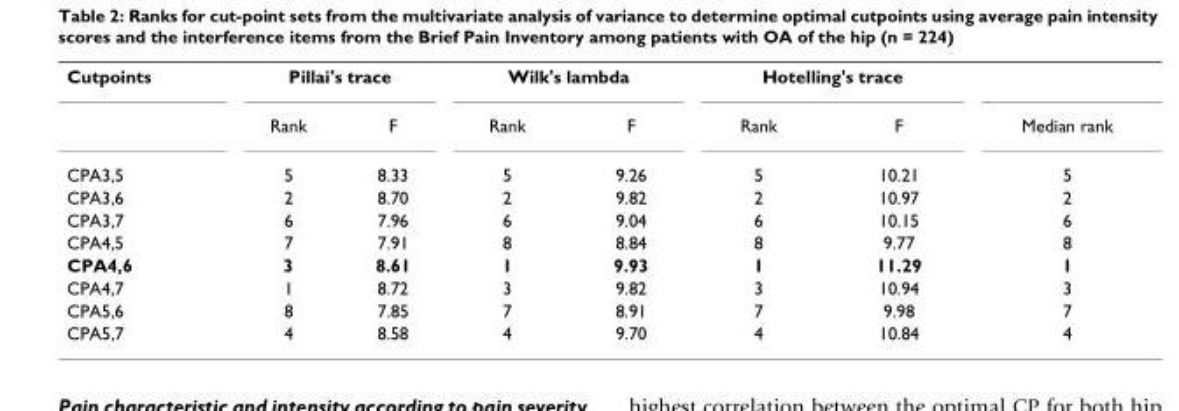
<table><tbody><tr><td rowspan="2">Cutpoints</td><td colspan="2">Pillai&#x27;s trace</td><td colspan="2">Wilk&#x27;s lambda</td><td colspan="2">Hotelling&#x27;s trace</td><td></td></tr><tr><td>Rank</td><td>F</td><td>Rank</td><td>F</td><td>Rank</td><td>F</td><td>Median rank</td></tr><tr><td>CPA3,5</td><td>5</td><td>8.33</td><td>5</td><td>9.26</td><td>5</td><td>10.21</td><td>5</td></tr><tr><td>CPA3,6</td><td>2</td><td>8.70</td><td>2</td><td>9.82</td><td>2</td><td>10.97</td><td>2</td></tr><tr><td>CPA3,7</td><td>6</td><td>7.96</td><td>6</td><td>9.04</td><td>6</td><td>10.15</td><td>6</td></tr><tr><td>CPA4,5</td><td>7</td><td>7.91</td><td>8</td><td>8.84</td><td>8</td><td>9.77</td><td>8</td></tr><tr><td>CPA4,6</td><td>3</td><td>8.61</td><td>1</td><td>9.93</td><td>1</td><td>11.29</td><td>1</td></tr><tr><td>CPA4,7</td><td>1</td><td>8.72</td><td>3</td><td>9.82</td><td>3</td><td>10.94</td><td>3</td></tr><tr><td>CPA5,6</td><td>8</td><td>7.85</td><td>7</td><td>8.91</td><td>7</td><td>9.98</td><td>7</td></tr><tr><td>CPA5,7</td><td>4</td><td>8.58</td><td>4</td><td>9.70</td><td>4</td><td>10.84</td><td>4</td></tr></tbody></table>